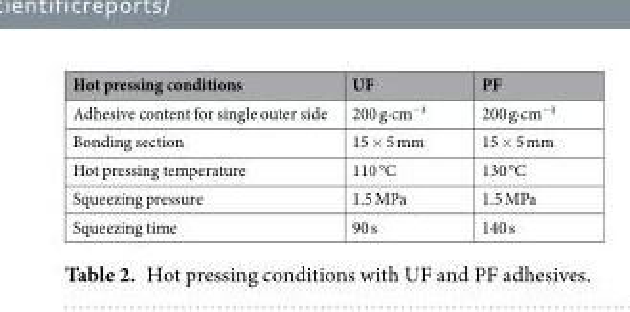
<table><thead><tr><td>Hot pressing conditions</td><td>UF</td><td>PF</td></tr></thead><tbody><tr><td>Adhesive content for single outer side</td><td>200 g·cm<sup>−3</sup></td><td>200 g·cm<sup>−3</sup></td></tr><tr><td>Bonding section</td><td>15 × 5 mm</td><td>15 × 5 mm</td></tr><tr><td>Hot pressing temperature</td><td>110 °C</td><td>130 °C</td></tr><tr><td>Squeezing pressure</td><td>1.5 MPa</td><td>1.5 MPa</td></tr><tr><td>Squeezing time</td><td>90 s</td><td>140 s</td></tr></tbody></table>